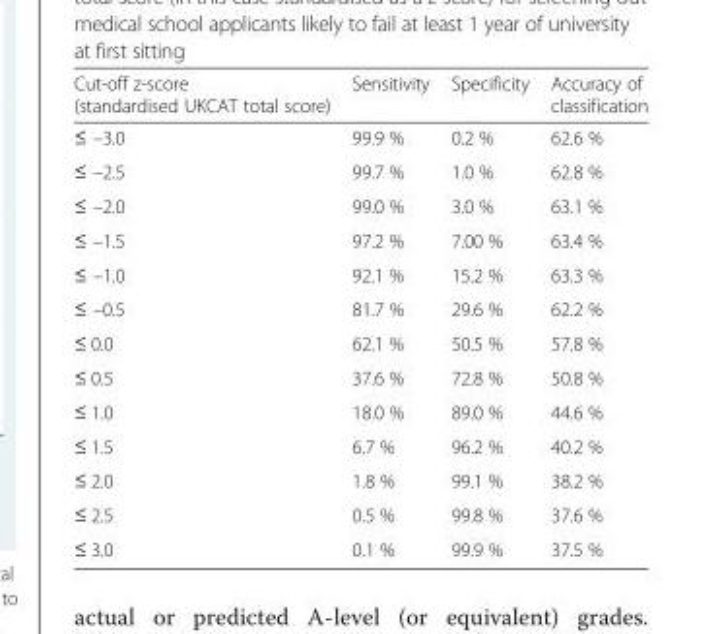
<table><thead><tr><td>Cut-off z-score (standardised UKCAT total score)</td><td>Sensitivity</td><td>Specificity</td><td>Accuracy of classification</td></tr></thead><tbody><tr><td>≤ –3.0</td><td>99.9 %</td><td>0.2 %</td><td>62.6 %</td></tr><tr><td>≤ –2.5</td><td>99.7 %</td><td>1.0 %</td><td>62.8 %</td></tr><tr><td>≤ –2.0</td><td>99.0 %</td><td>3.0 %</td><td>63.1 %</td></tr><tr><td>≤ –1.5</td><td>97.2 %</td><td>7.00 %</td><td>63.4 %</td></tr><tr><td>≤ –1.0</td><td>92.1 %</td><td>15.2 %</td><td>63.3 %</td></tr><tr><td>≤ –0.5</td><td>81.7 %</td><td>29.6 %</td><td>62.2 %</td></tr><tr><td>≤ 0.0</td><td>62.1 %</td><td>50.5 %</td><td>57.8 %</td></tr><tr><td>≤ 0.5</td><td>37.6 %</td><td>72.8 %</td><td>50.8 %</td></tr><tr><td>≤ 1.0</td><td>18.0 %</td><td>89.0 %</td><td>44.6 %</td></tr><tr><td>≤ 1.5</td><td>6.7 %</td><td>96.2 %</td><td>40.2 %</td></tr><tr><td>≤ 2.0</td><td>1.8 %</td><td>99.1 %</td><td>38.2 %</td></tr><tr><td>≤ 2.5</td><td>0.5 %</td><td>99.8 %</td><td>37.6 %</td></tr><tr><td>≤ 3.0</td><td>0.1 %</td><td>99.9 %</td><td>37.5 %</td></tr></tbody></table>